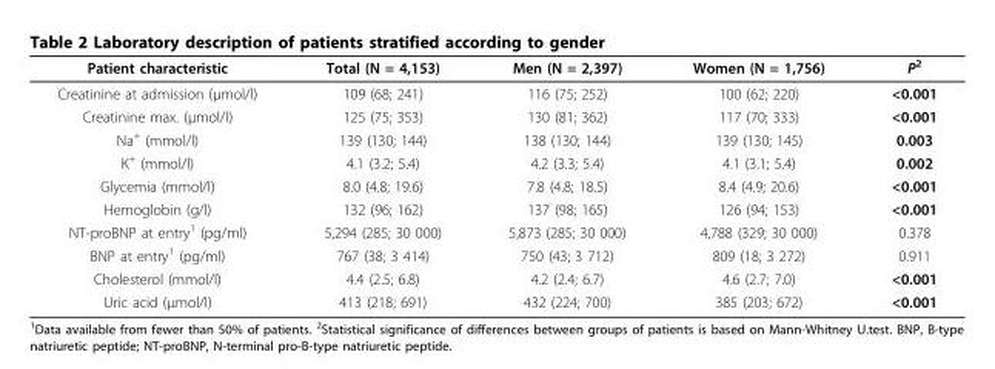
<table><thead><tr><td>Patient characteristic</td><td>Total (N = 4,153)</td><td>Men (N = 2,397)</td><td>Women (N = 1,756)</td><td>P<sup>2</sup></td></tr></thead><tbody><tr><td>Creatinine at admission (μmol/l)</td><td>109 (68; 241)</td><td>116 (75; 252)</td><td>100 (62; 220)</td><td>&lt;0.001</td></tr><tr><td>Creatinine max. (μmol/l)</td><td>125 (75; 353)</td><td>130 (81; 362)</td><td>117 (70; 333)</td><td>&lt;0.001</td></tr><tr><td>Na<sup>+</sup> (mmol/l)</td><td>139 (130; 144)</td><td>138 (130; 144)</td><td>139 (130; 145)</td><td>0.003</td></tr><tr><td>K<sup>+</sup> (mmol/l)</td><td>4.1 (3.2; 5.4)</td><td>4.2 (3.3; 5.4)</td><td>4.1 (3.1; 5.4)</td><td>0.002</td></tr><tr><td>Glycemia (mmol/l)</td><td>8.0 (4.8; 19.6)</td><td>7.8 (4.8; 18.5)</td><td>8.4 (4.9; 20.6)</td><td>&lt;0.001</td></tr><tr><td>Hemoglobin (g/l)</td><td>132 (96; 162)</td><td>137 (98; 165)</td><td>126 (94; 153)</td><td>&lt;0.001</td></tr><tr><td>NT-proBNP at entry<sup>1</sup> (pg/ml)</td><td>5,294 (285; 30 000)</td><td>5,873 (285; 30 000)</td><td>4,788 (329; 30 000)</td><td>0.378</td></tr><tr><td>BNP at entry<sup>1</sup> (pg/ml)</td><td>767 (38; 3 414)</td><td>750 (43; 3 712)</td><td>809 (18; 3 272)</td><td>0.911</td></tr><tr><td>Cholesterol (mmol/l)</td><td>4.4 (2.5; 6.8)</td><td>4.2 (2.4; 6.7)</td><td>4.6 (2.7; 7.0)</td><td>&lt;0.001</td></tr><tr><td>Uric acid (μmol/l)</td><td>413 (218; 691)</td><td>432 (224; 700)</td><td>385 (203; 672)</td><td>&lt;0.001</td></tr></tbody></table>